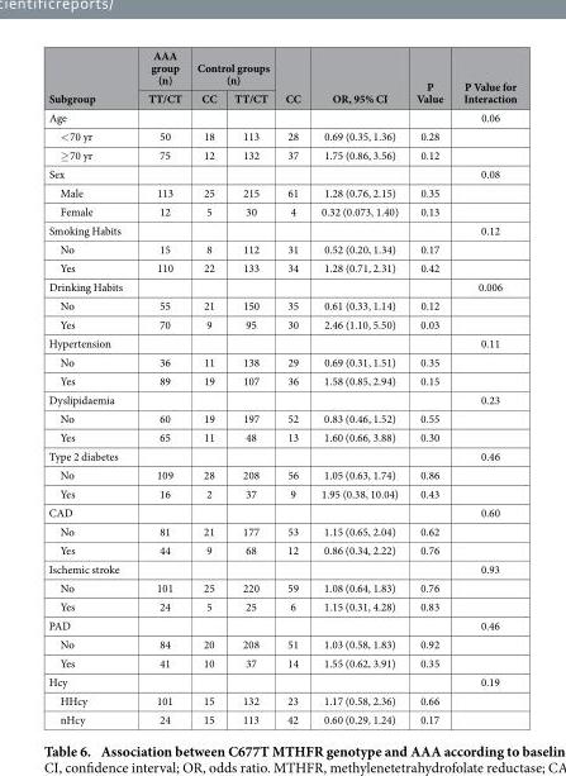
<table><thead><tr><td rowspan="2">Subgroup</td><td rowspan="2">AAA group (n) TT/CT</td><td colspan="2">Control groups (n)</td><td rowspan="2">CC</td><td rowspan="2">OR, 95% CI</td><td rowspan="2">P Value</td><td rowspan="2">P Value for Interaction</td></tr><tr><td>CC</td><td>TT/CT</td></tr></thead><tbody><tr><td>Age</td><td></td><td></td><td></td><td></td><td></td><td></td><td>0.06</td></tr><tr><td>&lt; 70 yr</td><td>50</td><td>18</td><td>113</td><td>28</td><td>0.69 (0.35, 1.36)</td><td>0.28</td><td></td></tr><tr><td>≥ 70 yr</td><td>75</td><td>12</td><td>132</td><td>37</td><td>1.75 (0.86, 3.56)</td><td>0.12</td><td></td></tr><tr><td>Sex</td><td></td><td></td><td></td><td></td><td></td><td></td><td>0.08</td></tr><tr><td>Male</td><td>113</td><td>25</td><td>215</td><td>61</td><td>1.28 (0.76, 2.15)</td><td>0.35</td><td></td></tr><tr><td>Female</td><td>12</td><td>5</td><td>30</td><td>4</td><td>0.32 (0.073, 1.40)</td><td>0.13</td><td></td></tr><tr><td>Smoking Habits</td><td></td><td></td><td></td><td></td><td></td><td></td><td>0.12</td></tr><tr><td>No</td><td>15</td><td>8</td><td>112</td><td>31</td><td>0.52 (0.20, 1.34)</td><td>0.17</td><td></td></tr><tr><td>Yes</td><td>110</td><td>22</td><td>133</td><td>34</td><td>1.28 (0.71, 2.31)</td><td>0.42</td><td></td></tr><tr><td>Drinking Habits</td><td></td><td></td><td></td><td></td><td></td><td></td><td>0.006</td></tr><tr><td>No</td><td>55</td><td>21</td><td>150</td><td>35</td><td>0.61 (0.33, 1.14)</td><td>0.12</td><td></td></tr><tr><td>Yes</td><td>70</td><td>9</td><td>95</td><td>30</td><td>2.46 (1.10, 5.50)</td><td>0.03</td><td></td></tr><tr><td>Hypertension</td><td></td><td></td><td></td><td></td><td></td><td></td><td>0.11</td></tr><tr><td>No</td><td>36</td><td>11</td><td>138</td><td>29</td><td>0.69 (0.31, 1.51)</td><td>0.35</td><td></td></tr><tr><td>Yes</td><td>89</td><td>19</td><td>107</td><td>36</td><td>1.58 (0.85, 2.94)</td><td>0.15</td><td></td></tr><tr><td>Dyslipidaemia</td><td></td><td></td><td></td><td></td><td></td><td></td><td>0.23</td></tr><tr><td>No</td><td>60</td><td>19</td><td>197</td><td>52</td><td>0.83 (0.46, 1.52)</td><td>0.55</td><td></td></tr><tr><td>Yes</td><td>65</td><td>11</td><td>48</td><td>13</td><td>1.60 (0.66, 3.88)</td><td>0.30</td><td></td></tr><tr><td>Type 2 diabetes</td><td></td><td></td><td></td><td></td><td></td><td></td><td>0.46</td></tr><tr><td>No</td><td>109</td><td>28</td><td>208</td><td>56</td><td>1.05 (0.63, 1.74)</td><td>0.86</td><td></td></tr><tr><td>Yes</td><td>16</td><td>2</td><td>37</td><td>9</td><td>1.95 (0.38, 10.04)</td><td>0.43</td><td></td></tr><tr><td>CAD</td><td></td><td></td><td></td><td></td><td></td><td></td><td>0.60</td></tr><tr><td>No</td><td>81</td><td>21</td><td>177</td><td>53</td><td>1.15 (0.65, 2.04)</td><td>0.62</td><td></td></tr><tr><td>Yes</td><td>44</td><td>9</td><td>68</td><td>12</td><td>0.86 (0.34, 2.22)</td><td>0.76</td><td></td></tr><tr><td>Ischemic stroke</td><td></td><td></td><td></td><td></td><td></td><td></td><td>0.93</td></tr><tr><td>No</td><td>101</td><td>25</td><td>220</td><td>59</td><td>1.08 (0.64, 1.83)</td><td>0.76</td><td></td></tr><tr><td>Yes</td><td>24</td><td>5</td><td>25</td><td>6</td><td>1.15 (0.31, 4.28)</td><td>0.83</td><td></td></tr><tr><td>PAD</td><td></td><td></td><td></td><td></td><td></td><td></td><td>0.46</td></tr><tr><td>No</td><td>84</td><td>20</td><td>208</td><td>51</td><td>1.03 (0.58, 1.83)</td><td>0.92</td><td></td></tr><tr><td>Yes</td><td>41</td><td>10</td><td>37</td><td>14</td><td>1.55 (0.62, 3.91)</td><td>0.35</td><td></td></tr><tr><td>Hcy</td><td></td><td></td><td></td><td></td><td></td><td></td><td>0.19</td></tr><tr><td>HHcy</td><td>101</td><td>15</td><td>132</td><td>23</td><td>1.17 (0.58, 2.36)</td><td>0.66</td><td></td></tr><tr><td>nHcy</td><td>24</td><td>15</td><td>113</td><td>42</td><td>0.60 (0.29, 1.24)</td><td>0.17</td><td></td></tr></tbody></table>